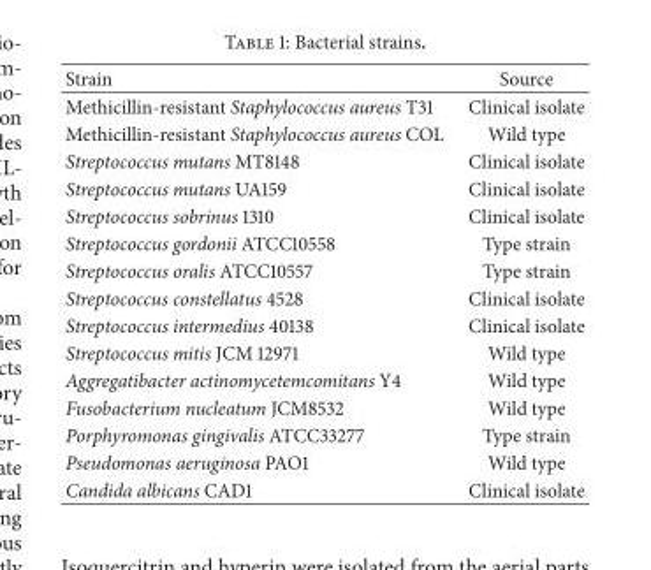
<table><thead><tr><td>Strain</td><td>Source</td></tr></thead><tbody><tr><td>Methicillin-resistant Staphylococcus aureus T31</td><td>Clinical isolate</td></tr><tr><td>Methicillin-resistant Staphylococcus aureus COL</td><td>Wild type</td></tr><tr><td>Streptococcus mutans MT8148</td><td>Clinical isolate</td></tr><tr><td>Streptococcus mutans UA159</td><td>Clinical isolate</td></tr><tr><td>Streptococcus sobrinus 1310</td><td>Clinical isolate</td></tr><tr><td>Streptococcus gordonii ATCC10558</td><td>Type strain</td></tr><tr><td>Streptococcus oralis ATCC10557</td><td>Type strain</td></tr><tr><td>Streptococcus constellatus 4528</td><td>Clinical isolate</td></tr><tr><td>Streptococcus intermedius 40138</td><td>Clinical isolate</td></tr><tr><td>Streptococcus mitis JCM 12971</td><td>Wild type</td></tr><tr><td>Aggregatibacter actinomycetemcomitans Y4</td><td>Wild type</td></tr><tr><td>Fusobacterium nucleatum JCM8532</td><td>Wild type</td></tr><tr><td>Porphyromonas gingivalis ATCC33277</td><td>Type strain</td></tr><tr><td>Pseudomonas aeruginosa PAO1</td><td>Wild type</td></tr><tr><td>Candida albicans CAD1</td><td>Clinical isolate</td></tr></tbody></table>